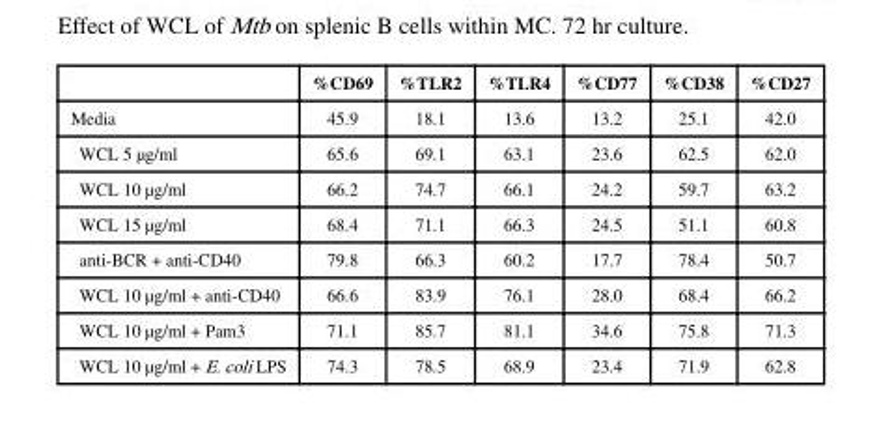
<table><thead><tr><td></td><td>%CD69</td><td>%TLR2</td><td>%TLR4</td><td>%CD77</td><td>%CD38</td><td>%CD27</td></tr></thead><tbody><tr><td>Media</td><td>45.9</td><td>18.1</td><td>13.6</td><td>13.2</td><td>25.1</td><td>42.0</td></tr><tr><td>WCL 5 µg/ml</td><td>65.6</td><td>69.1</td><td>63.1</td><td>23.6</td><td>62.5</td><td>62.0</td></tr><tr><td>WCL 10 µg/ml</td><td>66.2</td><td>74.7</td><td>66.1</td><td>24.2</td><td>59.7</td><td>63.2</td></tr><tr><td>WCL 15 µg/ml</td><td>68.4</td><td>71.1</td><td>66.3</td><td>24.5</td><td>51.1</td><td>60.8</td></tr><tr><td>anti-BCR + anti-CD40</td><td>79.8</td><td>66.3</td><td>60.2</td><td>17.7</td><td>78.4</td><td>50.7</td></tr><tr><td>WCL 10 µg/ml + anti-CD40</td><td>66.6</td><td>83.9</td><td>76.1</td><td>28.0</td><td>68.4</td><td>66.2</td></tr><tr><td>WCL 10 µg/ml + Pam3</td><td>71.1</td><td>85.7</td><td>81.1</td><td>34.6</td><td>75.8</td><td>71.3</td></tr><tr><td>WCL 10 µg/ml + E. coli LPS</td><td>74.3</td><td>78.5</td><td>68.9</td><td>23.4</td><td>71.9</td><td>62.8</td></tr></tbody></table>